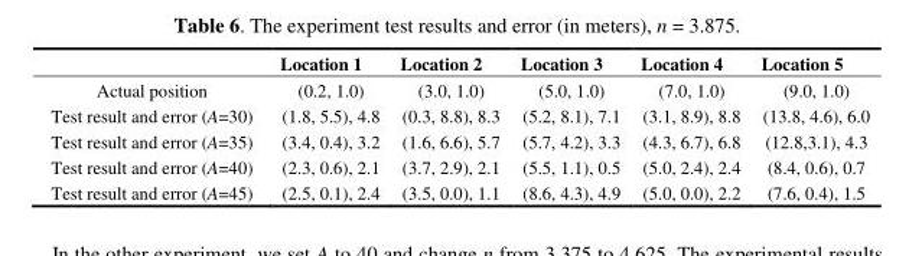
<table><thead><tr><td></td><td>Location 1</td><td>Location 2</td><td>Location 3</td><td>Location 4</td><td>Location 5</td></tr></thead><tbody><tr><td>Actual position</td><td>(0.2, 1.0)</td><td>(3.0, 1.0)</td><td>(5.0, 1.0)</td><td>(7.0, 1.0)</td><td>(9.0, 1.0)</td></tr><tr><td>Test result and error (A=30)</td><td>(1.8, 5.5), 4.8</td><td>(0.3, 8.8), 8.3</td><td>(5.2, 8.1), 7.1</td><td>(3.1, 8.9), 8.8</td><td>(13.8, 4.6), 6.0</td></tr><tr><td>Test result and error (A=35)</td><td>(3.4, 0.4), 3.2</td><td>(1.6, 6.6), 5.7</td><td>(5.7, 4.2), 3.3</td><td>(4.3, 6.7), 6.8</td><td>(12.8,3.1), 4.3</td></tr><tr><td>Test result and error (A=40)</td><td>(2.3, 0.6), 2.1</td><td>(3.7, 2.9), 2.1</td><td>(5.5, 1.1), 0.5</td><td>(5.0, 2.4), 2.4</td><td>(8.4, 0.6), 0.7</td></tr><tr><td>Test result and error (A=45)</td><td>(2.5, 0.1), 2.4</td><td>(3.5, 0.0), 1.1</td><td>(8.6, 4.3), 4.9</td><td>(5.0, 0.0), 2.2</td><td>(7.6, 0.4), 1.5</td></tr></tbody></table>